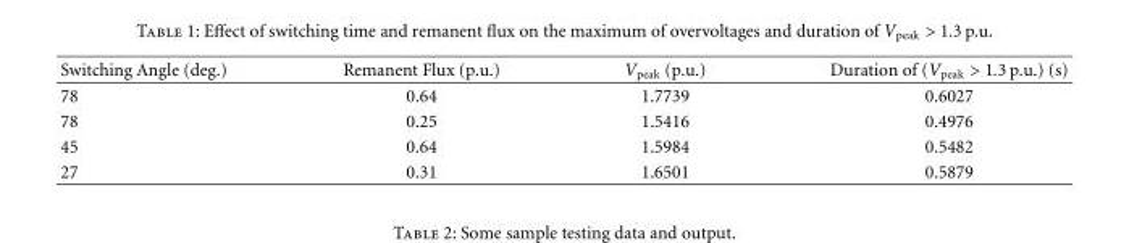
<table><thead><tr><td>Switching Angle (deg.)</td><td>Remanent Flux (p.u.)</td><td>V<sub>peak</sub> (p.u.)</td><td>Duration of (V<sub>peak</sub> &gt; 1.3 p.u.) (s)</td></tr></thead><tbody><tr><td>78</td><td>0.64</td><td>1.7739</td><td>0.6027</td></tr><tr><td>78</td><td>0.25</td><td>1.5416</td><td>0.4976</td></tr><tr><td>45</td><td>0.64</td><td>1.5984</td><td>0.5482</td></tr><tr><td>27</td><td>0.31</td><td>1.6501</td><td>0.5879</td></tr></tbody></table>